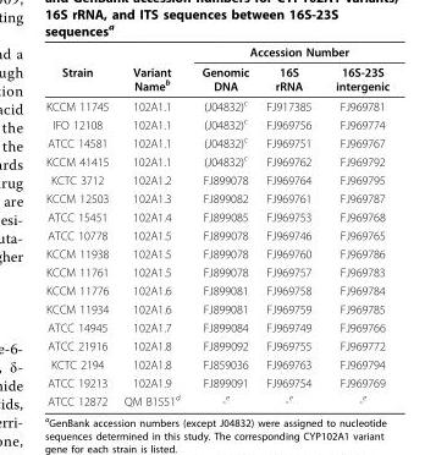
<table><thead><tr><td rowspan="2">Strain</td><td rowspan="2">Variant Name<sup>b</sup></td><td colspan="3">Accession Number</td></tr><tr><td>Genomic DNA</td><td>16S rRNA</td><td>16S-23S intergenic</td></tr></thead><tbody><tr><td>KCCM 11745</td><td>102A1.1</td><td>(J04832)<sup>c</sup></td><td>FJ917385</td><td>FJ969781</td></tr><tr><td>IFO 12108</td><td>102A1.1</td><td>(J04832)<sup>c</sup></td><td>FJ969756</td><td>FJ969774</td></tr><tr><td>ATCC 14581</td><td>102A1.1</td><td>(J04832)<sup>c</sup></td><td>FJ969751</td><td>FJ969767</td></tr><tr><td>KCCM 41415</td><td>102A1.1</td><td>(J04832)<sup>c</sup></td><td>FJ969762</td><td>FJ969792</td></tr><tr><td>KCTC 3712</td><td>102A1.2</td><td>FJ899078</td><td>FJ969764</td><td>FJ969795</td></tr><tr><td>KCCM 12503</td><td>102A1.3</td><td>FJ899082</td><td>FJ969761</td><td>FJ969787</td></tr><tr><td>ATCC 15451</td><td>102A1.4</td><td>FJ899085</td><td>FJ969753</td><td>FJ969768</td></tr><tr><td>ATCC 10778</td><td>102A1.5</td><td>FJ899078</td><td>FJ969746</td><td>FJ969765</td></tr><tr><td>KCCM 11938</td><td>102A1.5</td><td>FJ899078</td><td>FJ969760</td><td>FJ969786</td></tr><tr><td>KCCM 11761</td><td>102A1.5</td><td>FJ899078</td><td>FJ969757</td><td>FJ969783</td></tr><tr><td>KCCM 11776</td><td>102A1.6</td><td>FJ899081</td><td>FJ969758</td><td>FJ969784</td></tr><tr><td>KCCM 11934</td><td>102A1.6</td><td>FJ899081</td><td>FJ969759</td><td>FJ969785</td></tr><tr><td>ATCC 14945</td><td>102A1.7</td><td>FJ899084</td><td>FJ969749</td><td>FJ969766</td></tr><tr><td>ATCC 21916</td><td>102A1.8</td><td>FJ899092</td><td>FJ969755</td><td>FJ969772</td></tr><tr><td>KCTC 2194</td><td>102A1.8</td><td>FJ859036</td><td>FJ969763</td><td>FJ969794</td></tr><tr><td>ATCC 19213</td><td>102A1.9</td><td>FJ899091</td><td>FJ969754</td><td>FJ969769</td></tr><tr><td>ATCC 12872</td><td>QM B1551<sup>d</sup></td><td>-<sup>e</sup></td><td>-<sup>e</sup></td><td>-<sup>e</sup></td></tr></tbody></table>